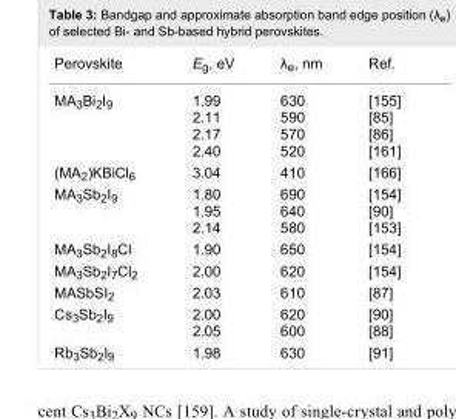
<table><tbody><tr><td>Perovskite</td><td>E<sub>g</sub>, eV</td><td>λ<sub>e</sub>, nm</td><td>Ref.</td></tr><tr><td>MA<sub>3</sub>Bi<sub>2</sub>I<sub>9</sub></td><td>1.99 2.11 2.17 2.40</td><td>630 590 570 520</td><td>[155] [85] [86] [161]</td></tr><tr><td>(MA<sub>2</sub>)KBiCl<sub>6</sub></td><td>3.04</td><td>410</td><td>[166]</td></tr><tr><td>MA<sub>3</sub>Sb<sub>2</sub>I<sub>9</sub></td><td>1.80 1.95 2.14</td><td>690 640 580</td><td>[154] [90] [153]</td></tr><tr><td>MA<sub>3</sub>Sb<sub>2</sub>I<sub>8</sub>Cl</td><td>1.90</td><td>650</td><td>[154]</td></tr><tr><td>MA<sub>3</sub>Sb<sub>2</sub>I<sub>7</sub>Cl<sub>2</sub></td><td>2.00</td><td>620</td><td>[154]</td></tr><tr><td>MASbSI<sub>2</sub></td><td>2.03</td><td>610</td><td>[87]</td></tr><tr><td>Cs<sub>3</sub>Sb<sub>2</sub>I<sub>9</sub></td><td>2.00 2.05</td><td>620 600</td><td>[90] [88]</td></tr><tr><td>Rb<sub>3</sub>Sb<sub>2</sub>I<sub>9</sub></td><td>1.98</td><td>630</td><td>[91]</td></tr></tbody></table>